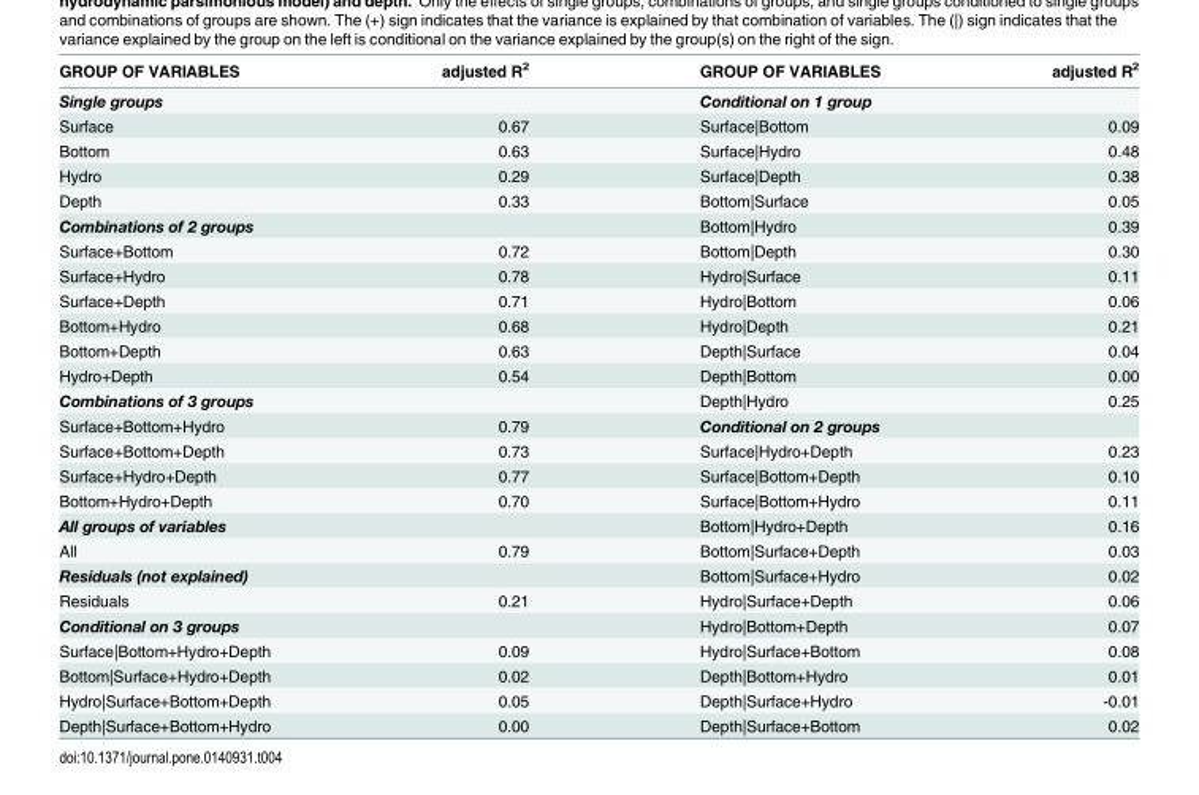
<table><thead><tr><td>GROUP OF VARIABLES</td><td>adjusted R<sup>2</sup></td><td>GROUP OF VARIABLES</td><td>adjusted R<sup>2</sup></td></tr></thead><tbody><tr><td>Single groups</td><td></td><td>Conditional on 1 group</td><td></td></tr><tr><td>Surface</td><td>0.67</td><td>Surface|Bottom</td><td>0.09</td></tr><tr><td>Bottom</td><td>0.63</td><td>Surface|Hydro</td><td>0.48</td></tr><tr><td>Hydro</td><td>0.29</td><td>Surface|Depth</td><td>0.38</td></tr><tr><td>Depth</td><td>0.33</td><td>Bottom|Surface</td><td>0.05</td></tr><tr><td>Combinations of 2 groups</td><td></td><td>Bottom|Hydro</td><td>0.39</td></tr><tr><td>Surface+Bottom</td><td>0.72</td><td>Bottom|Depth</td><td>0.30</td></tr><tr><td>Surface+Hydro</td><td>0.78</td><td>Hydro|Surface</td><td>0.11</td></tr><tr><td>Surface+Depth</td><td>0.71</td><td>Hydro|Bottom</td><td>0.06</td></tr><tr><td>Bottom+Hydro</td><td>0.68</td><td>Hydro|Depth</td><td>0.21</td></tr><tr><td>Bottom+Depth</td><td>0.63</td><td>Depth|Surface</td><td>0.04</td></tr><tr><td>Hydro+Depth</td><td>0.54</td><td>Depth|Bottom</td><td>0.00</td></tr><tr><td>Combinations of 3 groups</td><td></td><td>Depth|Hydro</td><td>0.25</td></tr><tr><td>Surface+Bottom+Hydro</td><td>0.79</td><td>Conditional on 2 groups</td><td></td></tr><tr><td>Surface+Bottom+Depth</td><td>0.73</td><td>Surface|Hydro+Depth</td><td>0.23</td></tr><tr><td>Surface+Hydro+Depth</td><td>0.77</td><td>Surface|Bottom+Depth</td><td>0.10</td></tr><tr><td>Bottom+Hydro+Depth</td><td>0.70</td><td>Surface|Bottom+Hydro</td><td>0.11</td></tr><tr><td>All groups of variables</td><td></td><td>Bottom|Hydro+Depth</td><td>0.16</td></tr><tr><td>All</td><td>0.79</td><td>Bottom|Surface+Depth</td><td>0.03</td></tr><tr><td>Residuals (not explained)</td><td></td><td>Bottom|Surface+Hydro</td><td>0.02</td></tr><tr><td>Residuals</td><td>0.21</td><td>Hydro|Surface+Depth</td><td>0.06</td></tr><tr><td>Conditional on 3 groups</td><td></td><td>Hydro|Bottom+Depth</td><td>0.07</td></tr><tr><td>Surface|Bottom+Hydro+Depth</td><td>0.09</td><td>Hydro|Surface+Bottom</td><td>0.08</td></tr><tr><td>Bottom|Surface+Hydro+Depth</td><td>0.02</td><td>Depth|Bottom+Hydro</td><td>0.01</td></tr><tr><td>Hydro|Surface+Bottom+Depth</td><td>0.05</td><td>Depth|Surface+Hydro</td><td>-0.01</td></tr><tr><td>Depth|Surface+Bottom+Hydro</td><td>0.00</td><td>Depth|Surface+Bottom</td><td>0.02</td></tr></tbody></table>